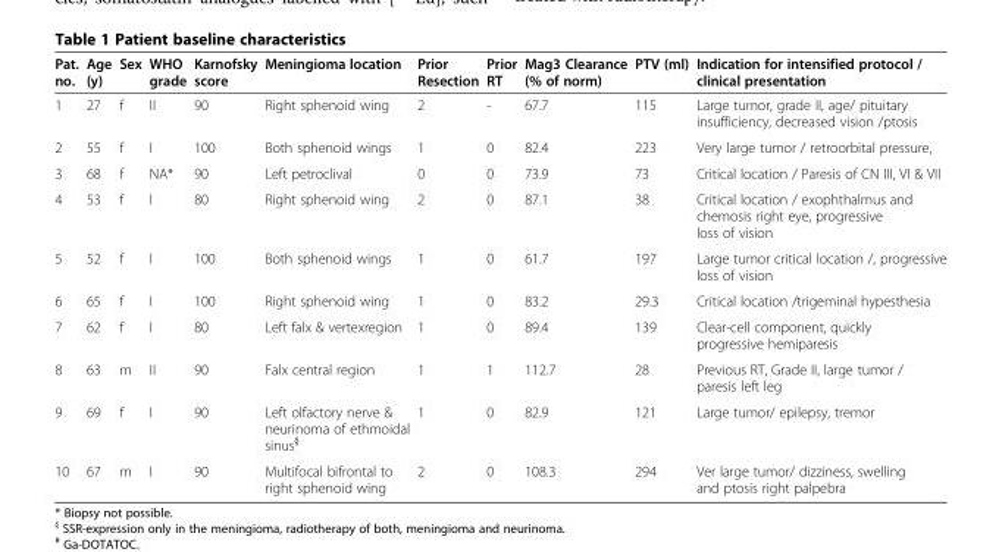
<table><thead><tr><td>Pat. no.</td><td>Age (y)</td><td>Sex</td><td>WHO grade</td><td>Karnofsky score</td><td>Meningioma location</td><td>Prior Resection</td><td>Prior RT</td><td>Mag3 Clearance (% of norm)</td><td>PTV (ml)</td><td>Indication for intensified protocol / clinical presentation</td></tr></thead><tbody><tr><td>1</td><td>27</td><td>f</td><td>II</td><td>90</td><td>Right sphenoid wing</td><td>2</td><td>-</td><td>67.7</td><td>115</td><td>Large tumor, grade II, age/ pituitary insufficiency, decreased vision /ptosis</td></tr><tr><td>2</td><td>55</td><td>f</td><td>I</td><td>100</td><td>Both sphenoid wings</td><td>1</td><td>0</td><td>82.4</td><td>223</td><td>Very large tumor / retroorbital pressure,</td></tr><tr><td>3</td><td>68</td><td>f</td><td>NA*</td><td>90</td><td>Left petroclival</td><td>0</td><td>0</td><td>73.9</td><td>73</td><td>Critical location / Paresis of CN III, VI &amp; VII</td></tr><tr><td>4</td><td>53</td><td>f</td><td>I</td><td>80</td><td>Right sphenoid wing</td><td>2</td><td>0</td><td>87.1</td><td>38</td><td>Critical location / exophthalmus and chemosis right eye, progressive loss of vision</td></tr><tr><td>5</td><td>52</td><td>f</td><td>I</td><td>100</td><td>Both sphenoid wings</td><td>1</td><td>0</td><td>61.7</td><td>197</td><td>Large tumor critical location /, progressive loss of vision</td></tr><tr><td>6</td><td>65</td><td>f</td><td>I</td><td>100</td><td>Right sphenoid wing</td><td>1</td><td>0</td><td>83.2</td><td>29.3</td><td>Critical location /trigeminal hypesthesia</td></tr><tr><td>7</td><td>62</td><td>f</td><td>I</td><td>80</td><td>Left falx &amp; vertexregion</td><td>1</td><td>0</td><td>89.4</td><td>139</td><td>Clear-cell component, quickly progressive hemiparesis</td></tr><tr><td>8</td><td>63</td><td>m</td><td>II</td><td>90</td><td>Falx central region</td><td>1</td><td>1</td><td>112.7</td><td>28</td><td>Previous RT, Grade II, large tumor / paresis left leg</td></tr><tr><td>9</td><td>69</td><td>f</td><td>I</td><td>90</td><td>Left olfactory nerve &amp; neurinoma of ethmoidal sinus<sup>§</sup></td><td>1</td><td>0</td><td>82.9</td><td>121</td><td>Large tumor/ epilepsy, tremor</td></tr><tr><td>10</td><td>67</td><td>m</td><td>I</td><td>90</td><td>Multifocal bifrontal to right sphenoid wing</td><td>2</td><td>0</td><td>108.3</td><td>294</td><td>Ver large tumor/ dizziness, swelling and ptosis right palpebra</td></tr></tbody></table>